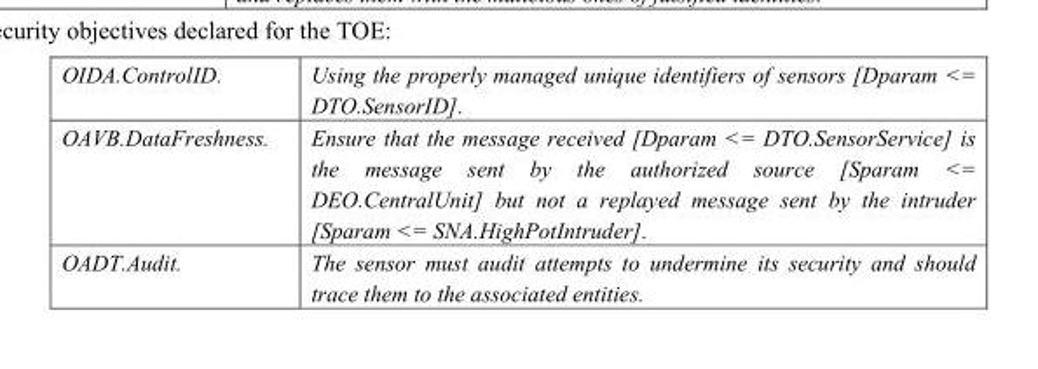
<table><tbody><tr><td>OIDA.ControlID.</td><td>Using the properly managed unique identifiers of sensors [Dparam &lt;= DTO.SensorID].</td></tr><tr><td>OAVB.DataFreshness.</td><td>Ensure that the message received [Dparam &lt;= DTO.SensorService] is the message sent by the authorized source [Sparam &lt;= DEO.CentralUnit] but not a replayed message sent by the intruder [Sparam &lt;= SNA.HighPotIntruder].</td></tr><tr><td>OADT.Audit.</td><td>The sensor must audit attempts to undermine its security and should trace them to the associated entities.</td></tr></tbody></table>